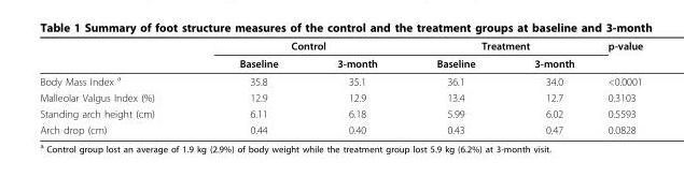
<table><thead><tr><td rowspan="2"></td><td colspan="2">Control</td><td colspan="2">Treatment</td><td rowspan="2">p-value</td></tr><tr><td>Baseline</td><td>3-month</td><td>Baseline</td><td>3-month</td></tr></thead><tbody><tr><td>Body Mass Index <sup>a</sup></td><td>35.8</td><td>35.1</td><td>36.1</td><td>34.0</td><td>&lt;0.0001</td></tr><tr><td>Malleolar Valgus Index (%)</td><td>12.9</td><td>12.9</td><td>13.4</td><td>12.7</td><td>0.3103</td></tr><tr><td>Standing arch height (cm)</td><td>6.11</td><td>6.18</td><td>5.99</td><td>6.02</td><td>0.5593</td></tr><tr><td>Arch drop (cm)</td><td>0.44</td><td>0.40</td><td>0.43</td><td>0.47</td><td>0.0828</td></tr></tbody></table>